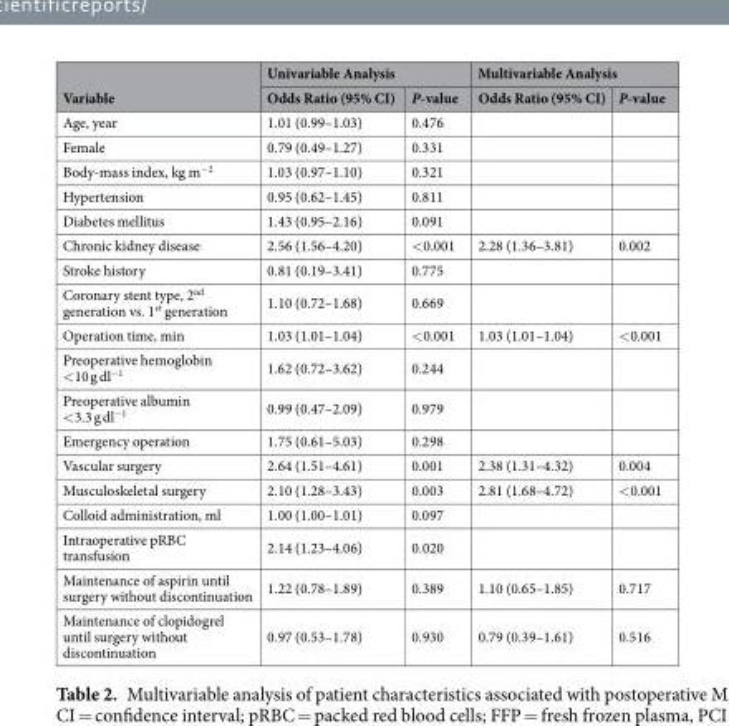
<table><thead><tr><td rowspan="2">Variable</td><td colspan="2">Univariable Analysis</td><td colspan="2">Multivariable Analysis</td></tr><tr><td>Odds Ratio (95% CI)</td><td>P-value</td><td>Odds Ratio (95% CI)</td><td>P-value</td></tr></thead><tbody><tr><td>Age, year</td><td>1.01 (0.99–1.03)</td><td>0.476</td><td></td><td></td></tr><tr><td>Female</td><td>0.79 (0.49–1.27)</td><td>0.331</td><td></td><td></td></tr><tr><td>Body-mass index, kg m<sup>−2</sup></td><td>1.03 (0.97–1.10)</td><td>0.321</td><td></td><td></td></tr><tr><td>Hypertension</td><td>0.95 (0.62–1.45)</td><td>0.811</td><td></td><td></td></tr><tr><td>Diabetes mellitus</td><td>1.43 (0.95–2.16)</td><td>0.091</td><td></td><td></td></tr><tr><td>Chronic kidney disease</td><td>2.56 (1.56–4.20)</td><td>&lt;0.001</td><td>2.28 (1.36–3.81)</td><td>0.002</td></tr><tr><td>Stroke history</td><td>0.81 (0.19–3.41)</td><td>0.775</td><td></td><td></td></tr><tr><td>Coronary stent type, 2<sup>nd</sup> generation vs. 1<sup>st</sup> generation</td><td>1.10 (0.72–1.68)</td><td>0.669</td><td></td><td></td></tr><tr><td>Operation time, min</td><td>1.03 (1.01–1.04)</td><td>&lt;0.001</td><td>1.03 (1.01–1.04)</td><td>&lt;0.001</td></tr><tr><td>Preoperative hemoglobin &lt;10 g dl<sup>−1</sup></td><td>1.62 (0.72–3.62)</td><td>0.244</td><td></td><td></td></tr><tr><td>Preoperative albumin &lt;3.3 g dl<sup>−1</sup></td><td>0.99 (0.47–2.09)</td><td>0.979</td><td></td><td></td></tr><tr><td>Emergency operation</td><td>1.75 (0.61–5.03)</td><td>0.298</td><td></td><td></td></tr><tr><td>Vascular surgery</td><td>2.64 (1.51–4.61)</td><td>0.001</td><td>2.38 (1.31–4.32)</td><td>0.004</td></tr><tr><td>Musculoskeletal surgery</td><td>2.10 (1.28–3.43)</td><td>0.003</td><td>2.81 (1.68–4.72)</td><td>&lt;0.001</td></tr><tr><td>Colloid administration, ml</td><td>1.00 (1.00–1.01)</td><td>0.097</td><td></td><td></td></tr><tr><td>Intraoperative pRBC transfusion</td><td>2.14 (1.23–4.06)</td><td>0.020</td><td></td><td></td></tr><tr><td>Maintenance of aspirin until surgery without discontinuation</td><td>1.22 (0.78–1.89)</td><td>0.389</td><td>1.10 (0.65–1.85)</td><td>0.717</td></tr><tr><td>Maintenance of clopidogrel until surgery without discontinuation</td><td>0.97 (0.53–1.78)</td><td>0.930</td><td>0.79 (0.39–1.61)</td><td>0.516</td></tr></tbody></table>